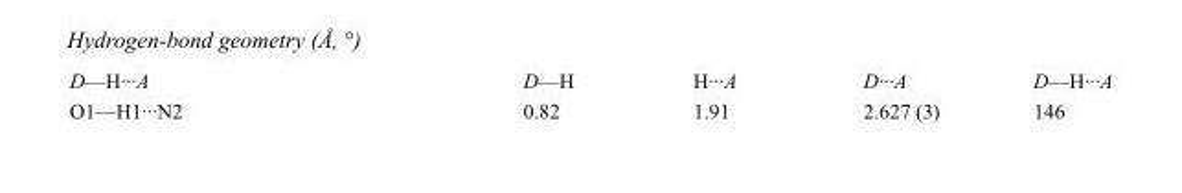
<table><tbody><tr><td>D—H···A</td><td>D—H</td><td>H···A</td><td>D···A</td><td>D—H···A</td></tr><tr><td>O1—H1···N2</td><td>0.82</td><td>1.91</td><td>2.627 (3)</td><td>146</td></tr></tbody></table>